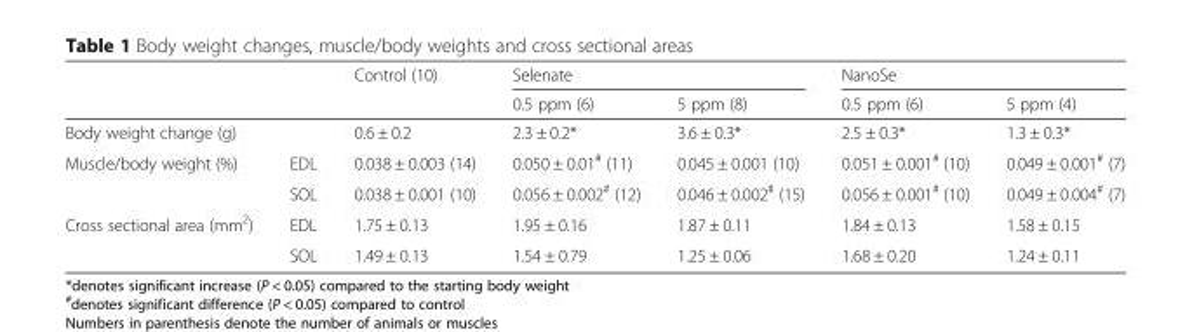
<table><thead><tr><td rowspan="2"></td><td rowspan="2"></td><td rowspan="2">Control (10)</td><td colspan="2">Selenate</td><td colspan="2">NanoSe</td></tr><tr><td>0.5 ppm (6)</td><td>5 ppm (8)</td><td>0.5 ppm (6)</td><td>5 ppm (4)</td></tr></thead><tbody><tr><td colspan="2">Body weight change (g)</td><td>0.6 ± 0.2</td><td>2.3 ± 0.2*</td><td>3.6 ± 0.3*</td><td>2.5 ± 0.3*</td><td>1.3 ± 0.3*</td></tr><tr><td rowspan="2">Muscle/body weight (%)</td><td>EDL</td><td>0.038 ± 0.003 (14)</td><td>0.050 ± 0.01<sup>#</sup> (11)</td><td>0.045 ± 0.001 (10)</td><td>0.051 ± 0.001<sup>#</sup> (10)</td><td>0.049 ± 0.001<sup>#</sup> (7)</td></tr><tr><td>SOL</td><td>0.038 ± 0.001 (10)</td><td>0.056 ± 0.002<sup>#</sup> (12)</td><td>0.046 ± 0.002<sup>#</sup> (15)</td><td>0.056 ± 0.001<sup>#</sup> (10)</td><td>0.049 ± 0.004<sup>#</sup> (7)</td></tr><tr><td rowspan="2">Cross sectional area (mm<sup>2</sup>)</td><td>EDL</td><td>1.75 ± 0.13</td><td>1.95 ± 0.16</td><td>1.87 ± 0.11</td><td>1.84 ± 0.13</td><td>1.58 ± 0.15</td></tr><tr><td>SOL</td><td>1.49 ± 0.13</td><td>1.54 ± 0.79</td><td>1.25 ± 0.06</td><td>1.68 ± 0.20</td><td>1.24 ± 0.11</td></tr></tbody></table>